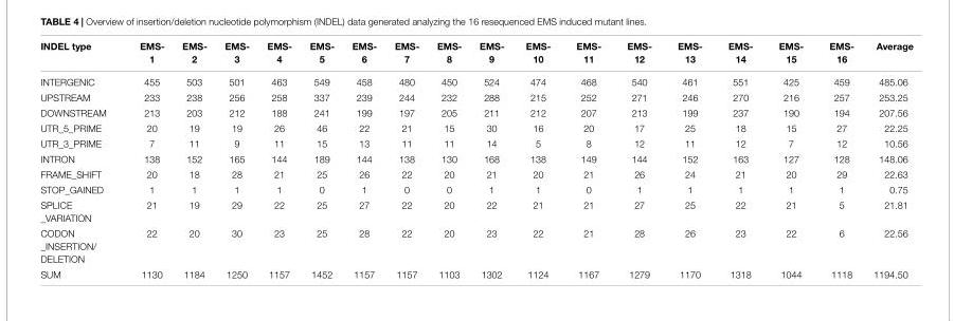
<table><thead><tr><td>INDEL type</td><td>EMS- 1</td><td>EMS- 2</td><td>EMS- 3</td><td>EMS- 4</td><td>EMS- 5</td><td>EMS- 6</td><td>EMS- 7</td><td>EMS- 8</td><td>EMS- 9</td><td>EMS- 10</td><td>EMS- 11</td><td>EMS- 12</td><td>EMS- 13</td><td>EMS- 14</td><td>EMS- 15</td><td>EMS- 16</td><td>Average</td></tr></thead><tbody><tr><td>INTERGENIC</td><td>455</td><td>503</td><td>501</td><td>463</td><td>549</td><td>458</td><td>480</td><td>450</td><td>524</td><td>474</td><td>468</td><td>540</td><td>461</td><td>551</td><td>425</td><td>459</td><td>485.06</td></tr><tr><td>UPSTREAM</td><td>233</td><td>238</td><td>256</td><td>258</td><td>337</td><td>239</td><td>244</td><td>232</td><td>288</td><td>215</td><td>252</td><td>271</td><td>246</td><td>270</td><td>216</td><td>257</td><td>253.25</td></tr><tr><td>DOWNSTREAM</td><td>213</td><td>203</td><td>212</td><td>188</td><td>241</td><td>199</td><td>197</td><td>205</td><td>211</td><td>212</td><td>207</td><td>213</td><td>199</td><td>237</td><td>190</td><td>194</td><td>207.56</td></tr><tr><td>UTR_5_PRIME</td><td>20</td><td>19</td><td>19</td><td>26</td><td>46</td><td>22</td><td>21</td><td>15</td><td>30</td><td>16</td><td>20</td><td>17</td><td>25</td><td>18</td><td>15</td><td>27</td><td>22.25</td></tr><tr><td>UTR_3_PRIME</td><td>7</td><td>11</td><td>9</td><td>11</td><td>15</td><td>13</td><td>11</td><td>11</td><td>14</td><td>5</td><td>8</td><td>12</td><td>11</td><td>12</td><td>7</td><td>12</td><td>10.56</td></tr><tr><td>INTRON</td><td>138</td><td>152</td><td>165</td><td>144</td><td>189</td><td>144</td><td>138</td><td>130</td><td>168</td><td>138</td><td>149</td><td>144</td><td>152</td><td>163</td><td>127</td><td>128</td><td>148.06</td></tr><tr><td>FRAME_SHIFT</td><td>20</td><td>18</td><td>28</td><td>21</td><td>25</td><td>26</td><td>22</td><td>20</td><td>21</td><td>20</td><td>21</td><td>26</td><td>24</td><td>21</td><td>20</td><td>29</td><td>22.63</td></tr><tr><td>STOP_GAINED</td><td>1</td><td>1</td><td>1</td><td>1</td><td>0</td><td>1</td><td>0</td><td>0</td><td>1</td><td>1</td><td>0</td><td>1</td><td>1</td><td>1</td><td>1</td><td>1</td><td>0.75</td></tr><tr><td>SPLICE _VARIATION</td><td>21</td><td>19</td><td>29</td><td>22</td><td>25</td><td>27</td><td>22</td><td>20</td><td>22</td><td>21</td><td>21</td><td>27</td><td>25</td><td>22</td><td>21</td><td>5</td><td>21.81</td></tr><tr><td>CODON _INSERTION/ DELETION</td><td>22</td><td>20</td><td>30</td><td>23</td><td>25</td><td>28</td><td>22</td><td>20</td><td>23</td><td>22</td><td>21</td><td>28</td><td>26</td><td>23</td><td>22</td><td>6</td><td>22.56</td></tr><tr><td>SUM</td><td>1130</td><td>1184</td><td>1250</td><td>1157</td><td>1452</td><td>1157</td><td>1157</td><td>1103</td><td>1302</td><td>1124</td><td>1167</td><td>1279</td><td>1170</td><td>1318</td><td>1044</td><td>1118</td><td>1194.50</td></tr></tbody></table>